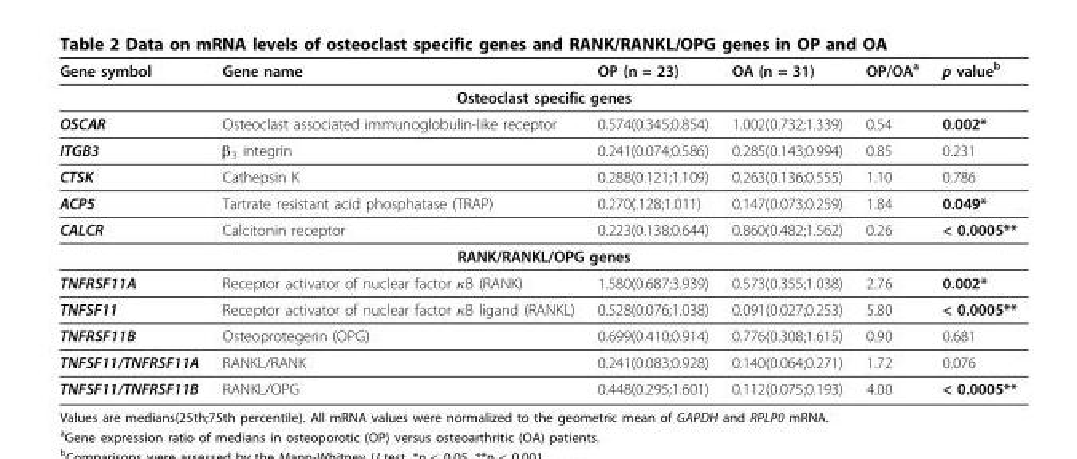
<table><thead><tr><td>Gene symbol</td><td>Gene name</td><td>OP (n = 23)</td><td>OA (n = 31)</td><td>OP/OA<sup>a</sup></td><td>p value<sup>b</sup></td></tr></thead><tbody><tr><td colspan="6">Osteoclast specific genes</td></tr><tr><td>OSCAR</td><td>Osteoclast associated immunoglobulin-like receptor</td><td>0.574(0.345;0.854)</td><td>1.002(0.732;1.339)</td><td>0.54</td><td>0.002*</td></tr><tr><td>ITGB3</td><td>β<sub>3</sub> integrin</td><td>0.241(0.074;0.586)</td><td>0.285(0.143;0.994)</td><td>0.85</td><td>0.231</td></tr><tr><td>CTSK</td><td>Cathepsin K</td><td>0.288(0.121;1.109)</td><td>0.263(0.136;0.555)</td><td>1.10</td><td>0.786</td></tr><tr><td>ACP5</td><td>Tartrate resistant acid phosphatase (TRAP)</td><td>0.270(.128;1.011)</td><td>0.147(0.073;0.259)</td><td>1.84</td><td>0.049*</td></tr><tr><td>CALCR</td><td>Calcitonin receptor</td><td>0.223(0.138;0.644)</td><td>0.860(0.482;1.562)</td><td>0.26</td><td>&lt; 0.0005**</td></tr><tr><td colspan="6">RANK/RANKL/OPG genes</td></tr><tr><td>TNFRSF11A</td><td>Receptor activator of nuclear factor κB (RANK)</td><td>1.580(0.687;3.939)</td><td>0.573(0.355;1.038)</td><td>2.76</td><td>0.002*</td></tr><tr><td>TNFSF11</td><td>Receptor activator of nuclear factor κB ligand (RANKL)</td><td>0.528(0.076;1.038)</td><td>0.091(0.027;0.253)</td><td>5.80</td><td>&lt; 0.0005**</td></tr><tr><td>TNFRSF11B</td><td>Osteoprotegerin (OPG)</td><td>0.699(0.410;0.914)</td><td>0.776(0.308;1.615)</td><td>0.90</td><td>0.681</td></tr><tr><td>TNFSF11/TNFRSF11A</td><td>RANKL/RANK</td><td>0.241(0.083;0.928)</td><td>0.140(0.064;0.271)</td><td>1.72</td><td>0.076</td></tr><tr><td>TNFSF11/TNFRSF11B</td><td>RANKL/OPG</td><td>0.448(0.295;1.601)</td><td>0.112(0.075;0.193)</td><td>4.00</td><td>&lt; 0.0005**</td></tr></tbody></table>